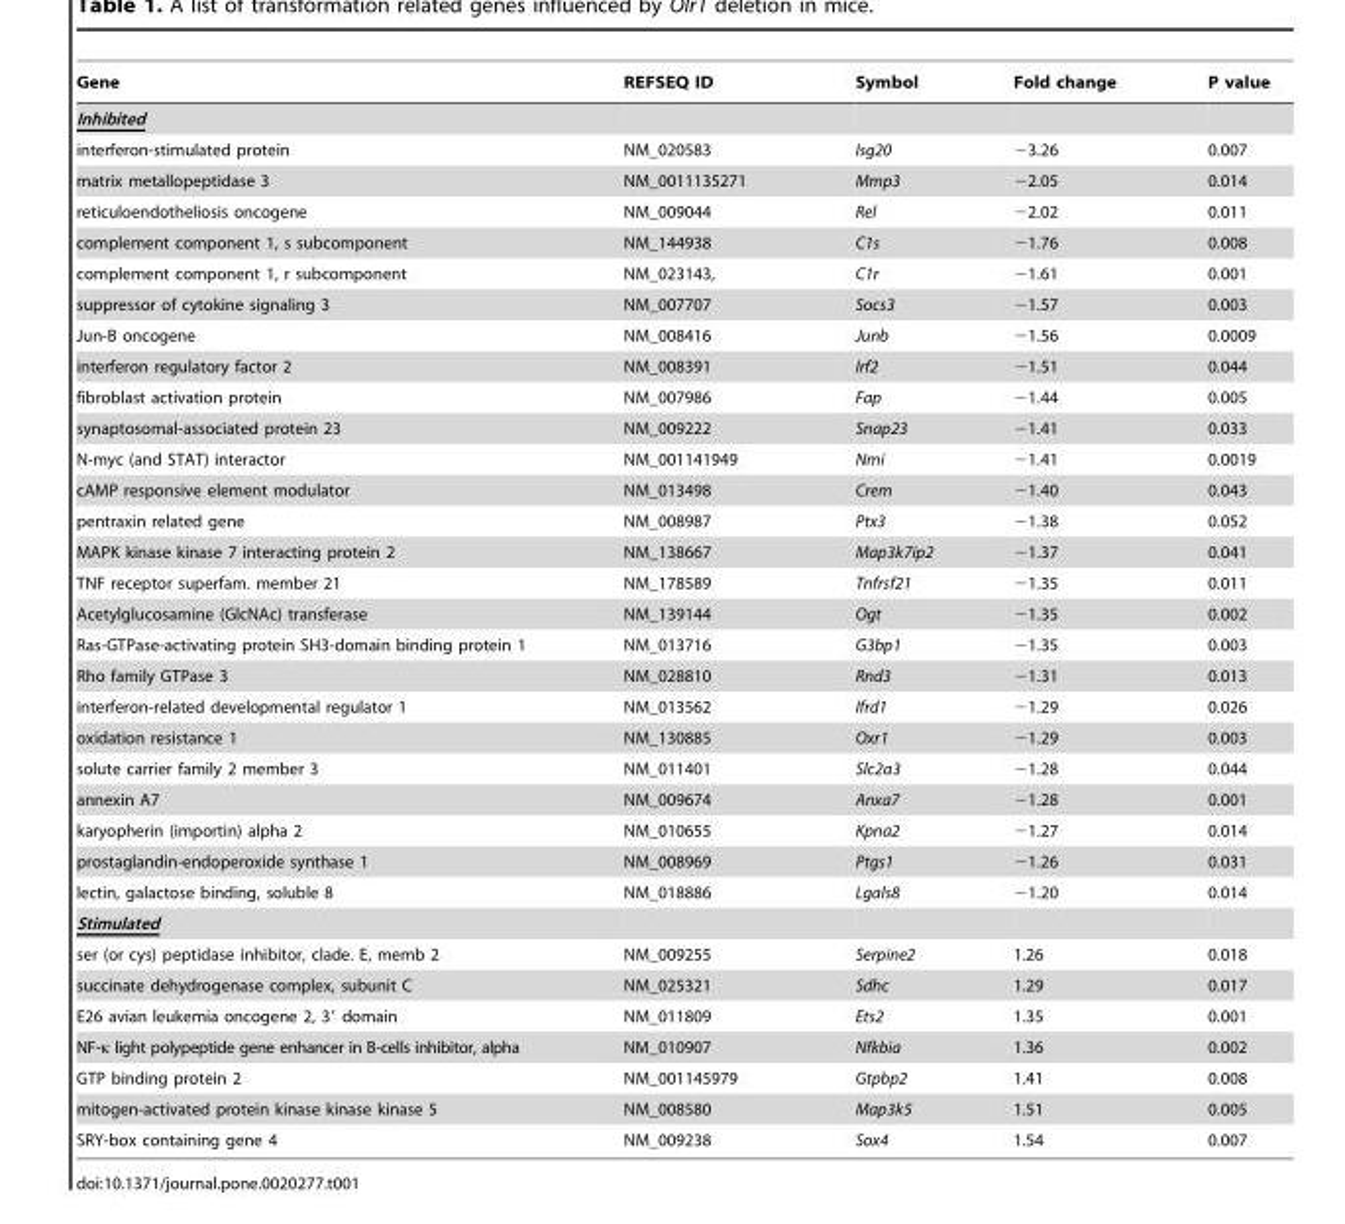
<table><thead><tr><td>Gene</td><td>REFSEQ ID</td><td>Symbol</td><td>Fold change</td><td>P value</td></tr></thead><tbody><tr><td colspan="5">Inhibited</td></tr><tr><td>interferon-stimulated protein</td><td>NM_020583</td><td>Isg20</td><td>−3.26</td><td>0.007</td></tr><tr><td>matrix metallopeptidase 3</td><td>NM_0011135271</td><td>Mmp3</td><td>−2.05</td><td>0.014</td></tr><tr><td>reticuloendotheliosis oncogene</td><td>NM_009044</td><td>Rel</td><td>−2.02</td><td>0.011</td></tr><tr><td>complement component 1, s subcomponent</td><td>NM_144938</td><td>C1s</td><td>−1.76</td><td>0.008</td></tr><tr><td>complement component 1, r subcomponent</td><td>NM_023143,</td><td>C1r</td><td>−1.61</td><td>0.001</td></tr><tr><td>suppressor of cytokine signaling 3</td><td>NM_007707</td><td>Socs3</td><td>−1.57</td><td>0.003</td></tr><tr><td>Jun-B oncogene</td><td>NM_008416</td><td>Junb</td><td>−1.56</td><td>0.0009</td></tr><tr><td>interferon regulatory factor 2</td><td>NM_008391</td><td>Irf2</td><td>−1.51</td><td>0.044</td></tr><tr><td>fibroblast activation protein</td><td>NM_007986</td><td>Fap</td><td>−1.44</td><td>0.005</td></tr><tr><td>synaptosomal-associated protein 23</td><td>NM_009222</td><td>Snap23</td><td>−1.41</td><td>0.033</td></tr><tr><td>N-myc (and STAT) interactor</td><td>NM_001141949</td><td>Nmi</td><td>−1.41</td><td>0.0019</td></tr><tr><td>cAMP responsive element modulator</td><td>NM_013498</td><td>Crem</td><td>−1.40</td><td>0.043</td></tr><tr><td>pentraxin related gene</td><td>NM_008987</td><td>Ptx3</td><td>−1.38</td><td>0.052</td></tr><tr><td>MAPK kinase kinase 7 interacting protein 2</td><td>NM_138667</td><td>Map3k7ip2</td><td>−1.37</td><td>0.041</td></tr><tr><td>TNF receptor superfam. member 21</td><td>NM_178589</td><td>Tnfrsf21</td><td>−1.35</td><td>0.011</td></tr><tr><td>Acetylglucosamine (GlcNAc) transferase</td><td>NM_139144</td><td>Ogt</td><td>−1.35</td><td>0.002</td></tr><tr><td>Ras-GTPase-activating protein SH3-domain binding protein 1</td><td>NM_013716</td><td>G3bp1</td><td>−1.35</td><td>0.003</td></tr><tr><td>Rho family GTPase 3</td><td>NM_028810</td><td>Rnd3</td><td>−1.31</td><td>0.013</td></tr><tr><td>interferon-related developmental regulator 1</td><td>NM_013562</td><td>Ifrd1</td><td>−1.29</td><td>0.026</td></tr><tr><td>oxidation resistance 1</td><td>NM_130885</td><td>Oxr1</td><td>−1.29</td><td>0.003</td></tr><tr><td>solute carrier family 2 member 3</td><td>NM_011401</td><td>Slc2a3</td><td>−1.28</td><td>0.044</td></tr><tr><td>annexin A7</td><td>NM_009674</td><td>Anxa7</td><td>−1.28</td><td>0.001</td></tr><tr><td>karyopherin (importin) alpha 2</td><td>NM_010655</td><td>Kpna2</td><td>−1.27</td><td>0.014</td></tr><tr><td>prostaglandin-endoperoxide synthase 1</td><td>NM_008969</td><td>Ptgs1</td><td>−1.26</td><td>0.031</td></tr><tr><td>lectin, galactose binding, soluble 8</td><td>NM_018886</td><td>Lgals8</td><td>−1.20</td><td>0.014</td></tr><tr><td colspan="5">Stimulated</td></tr><tr><td>ser (or cys) peptidase inhibitor, clade. E, memb 2</td><td>NM_009255</td><td>Serpine2</td><td>1.26</td><td>0.018</td></tr><tr><td>succinate dehydrogenase complex, subunit C</td><td>NM_025321</td><td>Sdhc</td><td>1.29</td><td>0.017</td></tr><tr><td>E26 avian leukemia oncogene 2, 3′ domain</td><td>NM_011809</td><td>Ets2</td><td>1.35</td><td>0.001</td></tr><tr><td>NF-κ light polypeptide gene enhancer in B-cells inhibitor, alpha</td><td>NM_010907</td><td>Nfkbia</td><td>1.36</td><td>0.002</td></tr><tr><td>GTP binding protein 2</td><td>NM_001145979</td><td>Gtpbp2</td><td>1.41</td><td>0.008</td></tr><tr><td>mitogen-activated protein kinase kinase kinase 5</td><td>NM_008580</td><td>Map3k5</td><td>1.51</td><td>0.005</td></tr><tr><td>SRY-box containing gene 4</td><td>NM_009238</td><td>Sox4</td><td>1.54</td><td>0.007</td></tr></tbody></table>